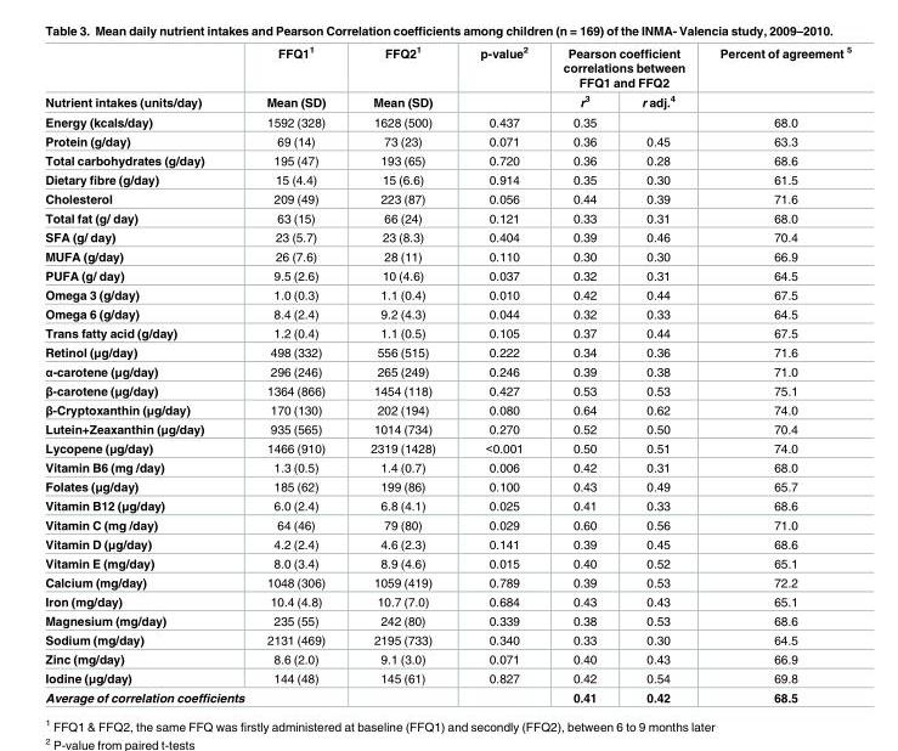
<table><thead><tr><td rowspan="2">Nutrient intakes (units/day)</td><td rowspan="2">FFQ1<sup>1</sup> Mean (SD)</td><td rowspan="2">FFQ2<sup>1</sup> Mean (SD)</td><td rowspan="2">p-value<sup>2</sup></td><td colspan="2">Pearson coefficient correlations between FFQ1 and FFQ2</td><td rowspan="2">Percent of agreement <sup>5</sup></td></tr><tr><td>r<sup>3</sup></td><td>r adj.<sup>4</sup></td></tr></thead><tbody><tr><td>Energy (kcals/day)</td><td>1592 (328)</td><td>1628 (500)</td><td>0.437</td><td>0.35</td><td></td><td>68.0</td></tr><tr><td>Protein (g/day)</td><td>69 (14)</td><td>73 (23)</td><td>0.071</td><td>0.36</td><td>0.45</td><td>63.3</td></tr><tr><td>Total carbohydrates (g/day)</td><td>195 (47)</td><td>193 (65)</td><td>0.720</td><td>0.36</td><td>0.28</td><td>68.6</td></tr><tr><td>Dietary fibre (g/day)</td><td>15 (4.4)</td><td>15 (6.6)</td><td>0.914</td><td>0.35</td><td>0.30</td><td>61.5</td></tr><tr><td>Cholesterol</td><td>209 (49)</td><td>223 (87)</td><td>0.056</td><td>0.44</td><td>0.39</td><td>71.6</td></tr><tr><td>Total fat (g/ day)</td><td>63 (15)</td><td>66 (24)</td><td>0.121</td><td>0.33</td><td>0.31</td><td>68.0</td></tr><tr><td>SFA (g/ day)</td><td>23 (5.7)</td><td>23 (8.3)</td><td>0.404</td><td>0.39</td><td>0.46</td><td>70.4</td></tr><tr><td>MUFA (g/day)</td><td>26 (7.6)</td><td>28 (11)</td><td>0.110</td><td>0.30</td><td>0.30</td><td>66.9</td></tr><tr><td>PUFA (g/ day)</td><td>9.5 (2.6)</td><td>10 (4.6)</td><td>0.037</td><td>0.32</td><td>0.31</td><td>64.5</td></tr><tr><td>Omega 3 (g/day)</td><td>1.0 (0.3)</td><td>1.1 (0.4)</td><td>0.010</td><td>0.42</td><td>0.44</td><td>67.5</td></tr><tr><td>Omega 6 (g/day)</td><td>8.4 (2.4)</td><td>9.2 (4.3)</td><td>0.044</td><td>0.32</td><td>0.33</td><td>64.5</td></tr><tr><td>Trans fatty acid (g/day)</td><td>1.2 (0.4)</td><td>1.1 (0.5)</td><td>0.105</td><td>0.37</td><td>0.44</td><td>67.5</td></tr><tr><td>Retinol (μg/day)</td><td>498 (332)</td><td>556 (515)</td><td>0.222</td><td>0.34</td><td>0.36</td><td>71.6</td></tr><tr><td>α-carotene (μg/day)</td><td>296 (246)</td><td>265 (249)</td><td>0.246</td><td>0.39</td><td>0.38</td><td>71.0</td></tr><tr><td>β-carotene (μg/day)</td><td>1364 (866)</td><td>1454 (118)</td><td>0.427</td><td>0.53</td><td>0.53</td><td>75.1</td></tr><tr><td>β-Cryptoxanthin (μg/day)</td><td>170 (130)</td><td>202 (194)</td><td>0.080</td><td>0.64</td><td>0.62</td><td>74.0</td></tr><tr><td>Lutein+Zeaxanthin (μg/day)</td><td>935 (565)</td><td>1014 (734)</td><td>0.270</td><td>0.52</td><td>0.50</td><td>70.4</td></tr><tr><td>Lycopene (μg/day)</td><td>1466 (910)</td><td>2319 (1428)</td><td>&lt;0.001</td><td>0.50</td><td>0.51</td><td>74.0</td></tr><tr><td>Vitamin B6 (mg /day)</td><td>1.3 (0.5)</td><td>1.4 (0.7)</td><td>0.006</td><td>0.42</td><td>0.31</td><td>68.0</td></tr><tr><td>Folates (μg/day)</td><td>185 (62)</td><td>199 (86)</td><td>0.100</td><td>0.43</td><td>0.49</td><td>65.7</td></tr><tr><td>Vitamin B12 (μg/day)</td><td>6.0 (2.4)</td><td>6.8 (4.1)</td><td>0.025</td><td>0.41</td><td>0.33</td><td>68.6</td></tr><tr><td>Vitamin C (mg /day)</td><td>64 (46)</td><td>79 (80)</td><td>0.029</td><td>0.60</td><td>0.56</td><td>71.0</td></tr><tr><td>Vitamin D (μg/day)</td><td>4.2 (2.4)</td><td>4.6 (2.3)</td><td>0.141</td><td>0.39</td><td>0.45</td><td>68.6</td></tr><tr><td>Vitamin E (mg/day)</td><td>8.0 (3.4)</td><td>8.9 (4.6)</td><td>0.015</td><td>0.40</td><td>0.52</td><td>65.1</td></tr><tr><td>Calcium (mg/day)</td><td>1048 (306)</td><td>1059 (419)</td><td>0.789</td><td>0.39</td><td>0.53</td><td>72.2</td></tr><tr><td>Iron (mg/day)</td><td>10.4 (4.8)</td><td>10.7 (7.0)</td><td>0.684</td><td>0.43</td><td>0.43</td><td>65.1</td></tr><tr><td>Magnesium (mg/day)</td><td>235 (55)</td><td>242 (80)</td><td>0.339</td><td>0.38</td><td>0.53</td><td>68.6</td></tr><tr><td>Sodium (mg/day)</td><td>2131 (469)</td><td>2195 (733)</td><td>0.340</td><td>0.33</td><td>0.30</td><td>64.5</td></tr><tr><td>Zinc (mg/day)</td><td>8.6 (2.0)</td><td>9.1 (3.0)</td><td>0.071</td><td>0.40</td><td>0.43</td><td>66.9</td></tr><tr><td>Iodine (μg/day)</td><td>144 (48)</td><td>145 (61)</td><td>0.827</td><td>0.42</td><td>0.54</td><td>69.8</td></tr><tr><td colspan="2">Average of correlation coefficients</td><td></td><td></td><td>0.41</td><td>0.42</td><td>68.5</td></tr></tbody></table>